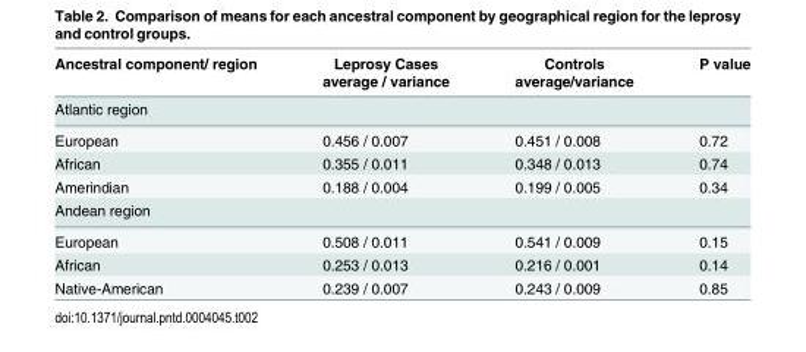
<table><thead><tr><td rowspan="2">Ancestral component/ region</td><td rowspan="2">Leprosy Cases average / variance</td><td rowspan="2">Controls average/variance</td><td rowspan="2">P value</td></tr><tr></tr></thead><tbody><tr><td colspan="4">Atlantic region</td></tr><tr><td>European</td><td>0.456 / 0.007</td><td>0.451 / 0.008</td><td>0.72</td></tr><tr><td>African</td><td>0.355 / 0.011</td><td>0.348 / 0.013</td><td>0.74</td></tr><tr><td>Amerindian</td><td>0.188 / 0.004</td><td>0.199 / 0.005</td><td>0.34</td></tr><tr><td colspan="4">Andean region</td></tr><tr><td>European</td><td>0.508 / 0.011</td><td>0.541 / 0.009</td><td>0.15</td></tr><tr><td>African</td><td>0.253 / 0.013</td><td>0.216 / 0.001</td><td>0.14</td></tr><tr><td>Native-American</td><td>0.239 / 0.007</td><td>0.243 / 0.009</td><td>0.85</td></tr></tbody></table>